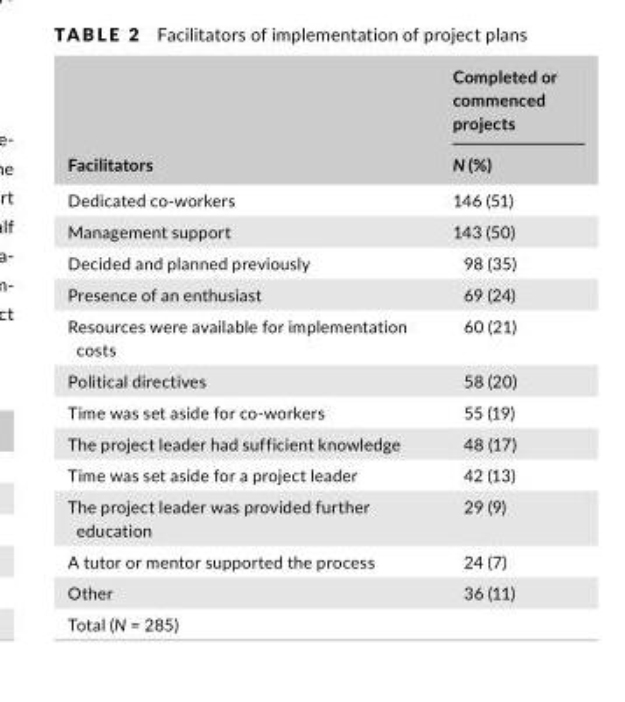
<table><thead><tr><td rowspan="2">Facilitators</td><td rowspan="2">Completed or commenced projects N (%)</td></tr><tr></tr></thead><tbody><tr><td>Dedicated co‐workers</td><td>146 (51)</td></tr><tr><td>Management support</td><td>143 (50)</td></tr><tr><td>Decided and planned previously</td><td>98 (35)</td></tr><tr><td>Presence of an enthusiast</td><td>69 (24)</td></tr><tr><td>Resources were available for implementation costs</td><td>60 (21)</td></tr><tr><td>Political directives</td><td>58 (20)</td></tr><tr><td>Time was set aside for co‐workers</td><td>55 (19)</td></tr><tr><td>The project leader had sufficient knowledge</td><td>48 (17)</td></tr><tr><td>Time was set aside for a project leader</td><td>42 (13)</td></tr><tr><td>The project leader was provided further education</td><td>29 (9)</td></tr><tr><td>A tutor or mentor supported the process</td><td>24 (7)</td></tr><tr><td>Other</td><td>36 (11)</td></tr><tr><td>Total (N = 285)</td><td></td></tr></tbody></table>